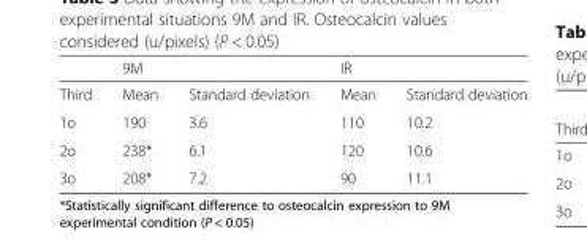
<table><thead><tr><td rowspan="2">Third</td><td colspan="2">9M</td><td colspan="2">IR</td></tr><tr><td>Mean</td><td>Standard deviation</td><td>Mean</td><td>Standard deviation</td></tr></thead><tbody><tr><td>1o</td><td>190</td><td>3.6</td><td>110</td><td>10.2</td></tr><tr><td>2o</td><td>238*</td><td>6.1</td><td>120</td><td>10.6</td></tr><tr><td>3o</td><td>208*</td><td>7.2</td><td>90</td><td>11.1</td></tr></tbody></table>